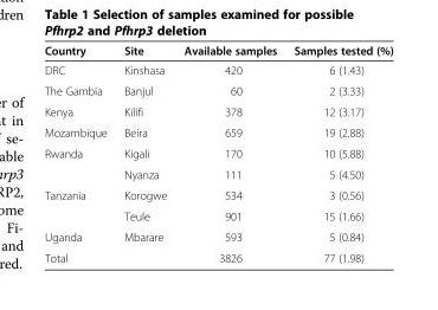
<table><thead><tr><td>Country</td><td>Site</td><td>Available samples</td><td>Samples tested (%)</td></tr></thead><tbody><tr><td>DRC</td><td>Kinshasa</td><td>420</td><td>6 (1.43)</td></tr><tr><td>The Gambia</td><td>Banjul</td><td>60</td><td>2 (3.33)</td></tr><tr><td>Kenya</td><td>Kilifi</td><td>378</td><td>12 (3.17)</td></tr><tr><td>Mozambique</td><td>Beira</td><td>659</td><td>19 (2.88)</td></tr><tr><td rowspan="2">Rwanda</td><td>Kigali</td><td>170</td><td>10 (5.88)</td></tr><tr><td>Nyanza</td><td>111</td><td>5 (4.50)</td></tr><tr><td rowspan="2">Tanzania</td><td>Korogwe</td><td>534</td><td>3 (0.56)</td></tr><tr><td>Teule</td><td>901</td><td>15 (1.66)</td></tr><tr><td>Uganda</td><td>Mbarare</td><td>593</td><td>5 (0.84)</td></tr><tr><td>Total</td><td></td><td>3826</td><td>77 (1.98)</td></tr></tbody></table>